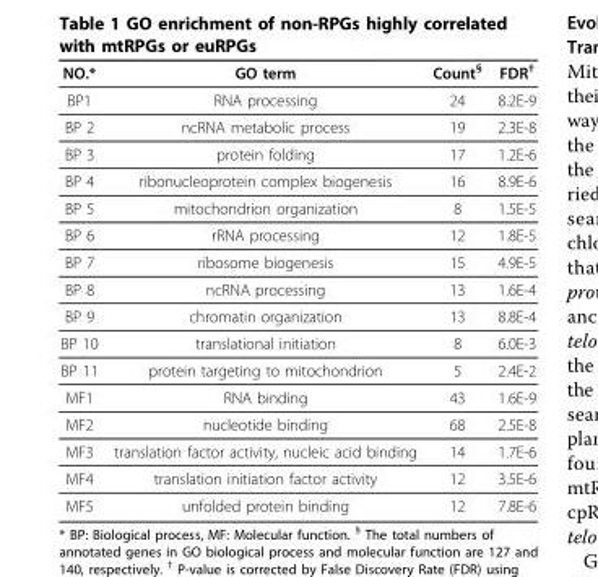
<table><thead><tr><td>NO.*</td><td>GO term</td><td>Count<sup>§</sup></td><td>FDR<sup>†</sup></td></tr></thead><tbody><tr><td>BP1</td><td>RNA processing</td><td>24</td><td>8.2E-9</td></tr><tr><td>BP 2</td><td>ncRNA metabolic process</td><td>19</td><td>2.3E-8</td></tr><tr><td>BP 3</td><td>protein folding</td><td>17</td><td>1.2E-6</td></tr><tr><td>BP 4</td><td>ribonucleoprotein complex biogenesis</td><td>16</td><td>8.9E-6</td></tr><tr><td>BP 5</td><td>mitochondrion organization</td><td>8</td><td>1.5E-5</td></tr><tr><td>BP 6</td><td>rRNA processing</td><td>12</td><td>1.8E-5</td></tr><tr><td>BP 7</td><td>ribosome biogenesis</td><td>15</td><td>4.9E-5</td></tr><tr><td>BP 8</td><td>ncRNA processing</td><td>13</td><td>1.6E-4</td></tr><tr><td>BP 9</td><td>chromatin organization</td><td>13</td><td>8.8E-4</td></tr><tr><td>BP 10</td><td>translational initiation</td><td>8</td><td>6.0E-3</td></tr><tr><td>BP 11</td><td>protein targeting to mitochondrion</td><td>5</td><td>2.4E-2</td></tr><tr><td>MF1</td><td>RNA binding</td><td>43</td><td>1.6E-9</td></tr><tr><td>MF2</td><td>nucleotide binding</td><td>68</td><td>2.5E-8</td></tr><tr><td>MF3</td><td>translation factor activity, nucleic acid binding</td><td>14</td><td>1.7E-6</td></tr><tr><td>MF4</td><td>translation initiation factor activity</td><td>12</td><td>3.5E-6</td></tr><tr><td>MF5</td><td>unfolded protein binding</td><td>12</td><td>7.8E-6</td></tr></tbody></table>